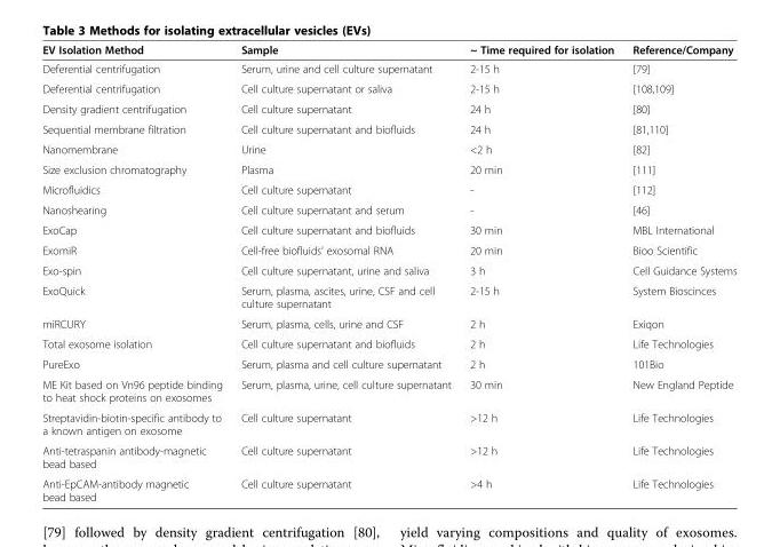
<table><thead><tr><td>EV Isolation Method</td><td>Sample</td><td>~ Time required for isolation</td><td>Reference/Company</td></tr></thead><tbody><tr><td>Deferential centrifugation</td><td>Serum, urine and cell culture supernatant</td><td>2-15 h</td><td>[79]</td></tr><tr><td>Deferential centrifugation</td><td>Cell culture supernatant or saliva</td><td>2-15 h</td><td>[108,109]</td></tr><tr><td>Density gradient centrifugation</td><td>Cell culture supernatant</td><td>24 h</td><td>[80]</td></tr><tr><td>Sequential membrane filtration</td><td>Cell culture supernatant and biofluids</td><td>24 h</td><td>[81,110]</td></tr><tr><td>Nanomembrane</td><td>Urine</td><td>&lt;2 h</td><td>[82]</td></tr><tr><td>Size exclusion chromatography</td><td>Plasma</td><td>20 min</td><td>[111]</td></tr><tr><td>Microfluidics</td><td>Cell culture supernatant</td><td>-</td><td>[112]</td></tr><tr><td>Nanoshearing</td><td>Cell culture supernatant and serum</td><td>-</td><td>[46]</td></tr><tr><td>ExoCap</td><td>Cell culture supernatant and biofluids</td><td>30 min</td><td>MBL International</td></tr><tr><td>ExomiR</td><td>Cell-free biofluids’ exosomal RNA</td><td>20 min</td><td>Bioo Scientific</td></tr><tr><td>Exo-spin</td><td>Cell culture supernatant, urine and saliva</td><td>3 h</td><td>Cell Guidance Systems</td></tr><tr><td>ExoQuick</td><td>Serum, plasma, ascites, urine, CSF and cell culture supernatant</td><td>2-15 h</td><td>System Bioscinces</td></tr><tr><td>miRCURY</td><td>Serum, plasma, cells, urine and CSF</td><td>2 h</td><td>Exiqon</td></tr><tr><td>Total exosome isolation</td><td>Cell culture supernatant and biofluids</td><td>2 h</td><td>Life Technologies</td></tr><tr><td>PureExo</td><td>Serum, plasma and cell culture supernatant</td><td>2 h</td><td>101Bio</td></tr><tr><td>ME Kit based on Vn96 peptide binding to heat shock proteins on exosomes</td><td>Serum, plasma, urine, cell culture supernatant</td><td>30 min</td><td>New England Peptide</td></tr><tr><td>Streptavidin-biotin-specific antibody to a known antigen on exosome</td><td>Cell culture supernatant</td><td>&gt;12 h</td><td>Life Technologies</td></tr><tr><td>Anti-tetraspanin antibody-magnetic bead based</td><td>Cell culture supernatant</td><td>&gt;12 h</td><td>Life Technologies</td></tr><tr><td>Anti-EpCAM-antibody magnetic bead based</td><td>Cell culture supernatant</td><td>&gt;4 h</td><td>Life Technologies</td></tr></tbody></table>